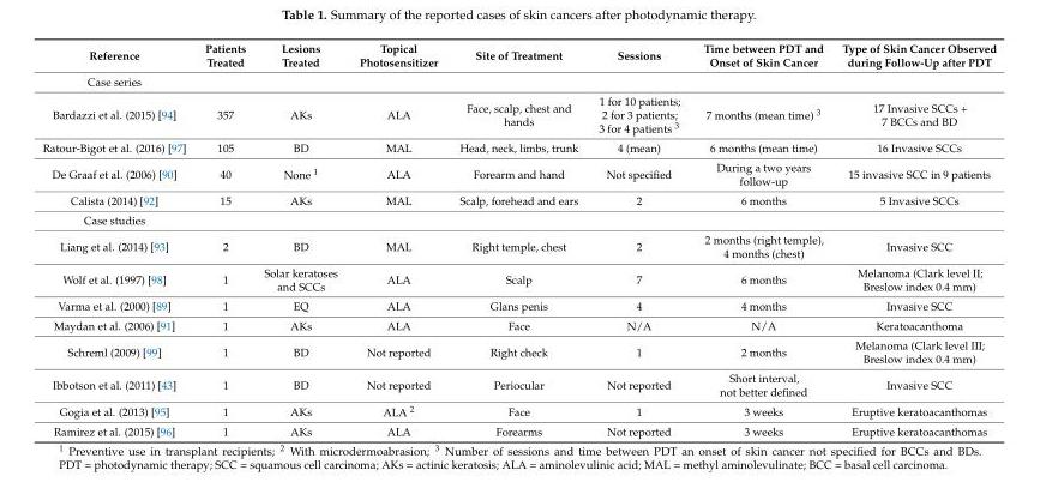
<table><thead><tr><td>Reference</td><td>Patients Treated</td><td>Lesions Treated</td><td>Topical Photosensitizer</td><td>Site of Treatment</td><td>Sessions</td><td>Time between PDT and Onset of Skin Cancer</td><td>Type of Skin Cancer Observed during Follow-Up after PDT</td></tr></thead><tbody><tr><td colspan="8">Case series</td></tr><tr><td>Bardazzi et al. (2015) [94]</td><td>357</td><td>AKs</td><td>ALA</td><td>Face, scalp, chest and hands</td><td>1 for 10 patients; 2 for 3 patients; 3 for 4 patients <sup>3</sup></td><td>7 months (mean time) <sup>3</sup></td><td>17 Invasive SCCs + 7 BCCs and BD</td></tr><tr><td>Ratour-Bigot et al. (2016) [97]</td><td>105</td><td>BD</td><td>MAL</td><td>Head, neck, limbs, trunk</td><td>4 (mean)</td><td>6 months (mean time)</td><td>16 Invasive SCCs</td></tr><tr><td>De Graaf et al. (2006) [90]</td><td>40</td><td>None <sup>1</sup></td><td>ALA</td><td>Forearm and hand</td><td>Not specified</td><td>During a two years follow-up</td><td>15 invasive SCC in 9 patients</td></tr><tr><td>Calista (2014) [92]</td><td>15</td><td>AKs</td><td>MAL</td><td>Scalp, forehead and ears</td><td>2</td><td>6 months</td><td>5 Invasive SCCs</td></tr><tr><td colspan="8">Case studies</td></tr><tr><td>Liang et al. (2014) [93]</td><td>2</td><td>BD</td><td>MAL</td><td>Right temple, chest</td><td>2</td><td>2 months (right temple), 4 months (chest)</td><td>Invasive SCC</td></tr><tr><td>Wolf et al. (1997) [98]</td><td>1</td><td>Solar keratoses and SCCs</td><td>ALA</td><td>Scalp</td><td>7</td><td>6 months</td><td>Melanoma (Clark level II; Breslow index 0.4 mm)</td></tr><tr><td>Varma et al. (2000) [89]</td><td>1</td><td>EQ</td><td>ALA</td><td>Glans penis</td><td>4</td><td>4 months</td><td>Invasive SCC</td></tr><tr><td>Maydan et al. (2006) [91]</td><td>1</td><td>AKs</td><td>ALA</td><td>Face</td><td>N/A</td><td>N/A</td><td>Keratoacanthoma</td></tr><tr><td>Schreml (2009) [99]</td><td>1</td><td>BD</td><td>Not reported</td><td>Right check</td><td>1</td><td>2 months</td><td>Melanoma (Clark level III; Breslow index 0.4 mm)</td></tr><tr><td>Ibbotson et al. (2011) [43]</td><td>1</td><td>BD</td><td>Not reported</td><td>Periocular</td><td>Not reported</td><td>Short interval, not better defined</td><td>Invasive SCC</td></tr><tr><td>Gogia et al. (2013) [95]</td><td>1</td><td>AKs</td><td>ALA <sup>2</sup></td><td>Face</td><td>1</td><td>3 weeks</td><td>Eruptive keratoacanthomas</td></tr><tr><td>Ramirez et al. (2015) [96]</td><td>1</td><td>AKs</td><td>ALA</td><td>Forearms</td><td>Not reported</td><td>3 weeks</td><td>Eruptive keratoacanthomas</td></tr></tbody></table>